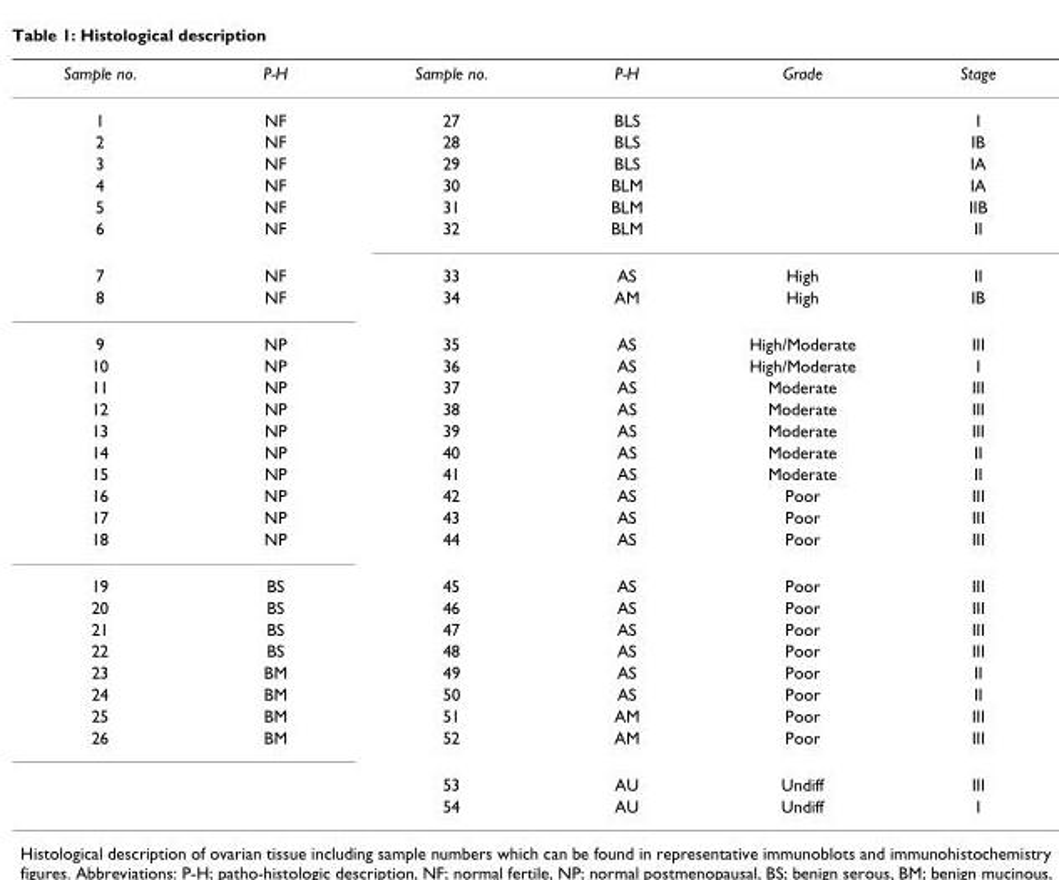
<table><thead><tr><td>Sample no.</td><td>P-H</td><td>Sample no.</td><td>P-H</td><td>Grade</td><td>Stage</td></tr></thead><tbody><tr><td>1</td><td>NF</td><td>27</td><td>BLS</td><td></td><td>I</td></tr><tr><td>2</td><td>NF</td><td>28</td><td>BLS</td><td></td><td>IB</td></tr><tr><td>3</td><td>NF</td><td>29</td><td>BLS</td><td></td><td>IA</td></tr><tr><td>4</td><td>NF</td><td>30</td><td>BLM</td><td></td><td>IA</td></tr><tr><td>5</td><td>NF</td><td>31</td><td>BLM</td><td></td><td>IIB</td></tr><tr><td>6</td><td>NF</td><td>32</td><td>BLM</td><td></td><td>II</td></tr><tr><td>7</td><td>NF</td><td>33</td><td>AS</td><td>High</td><td>II</td></tr><tr><td>8</td><td>NF</td><td>34</td><td>AM</td><td>High</td><td>IB</td></tr><tr><td>9</td><td>NP</td><td>35</td><td>AS</td><td>High/Moderate</td><td>III</td></tr><tr><td>10</td><td>NP</td><td>36</td><td>AS</td><td>High/Moderate</td><td>I</td></tr><tr><td>11</td><td>NP</td><td>37</td><td>AS</td><td>Moderate</td><td>III</td></tr><tr><td>12</td><td>NP</td><td>38</td><td>AS</td><td>Moderate</td><td>III</td></tr><tr><td>13</td><td>NP</td><td>39</td><td>AS</td><td>Moderate</td><td>III</td></tr><tr><td>14</td><td>NP</td><td>40</td><td>AS</td><td>Moderate</td><td>II</td></tr><tr><td>15</td><td>NP</td><td>41</td><td>AS</td><td>Moderate</td><td>II</td></tr><tr><td>16</td><td>NP</td><td>42</td><td>AS</td><td>Poor</td><td>III</td></tr><tr><td>17</td><td>NP</td><td>43</td><td>AS</td><td>Poor</td><td>III</td></tr><tr><td>18</td><td>NP</td><td>44</td><td>AS</td><td>Poor</td><td>III</td></tr><tr><td>19</td><td>BS</td><td>45</td><td>AS</td><td>Poor</td><td>III</td></tr><tr><td>20</td><td>BS</td><td>46</td><td>AS</td><td>Poor</td><td>III</td></tr><tr><td>21</td><td>BS</td><td>47</td><td>AS</td><td>Poor</td><td>III</td></tr><tr><td>22</td><td>BS</td><td>48</td><td>AS</td><td>Poor</td><td>III</td></tr><tr><td>23</td><td>BM</td><td>49</td><td>AS</td><td>Poor</td><td>II</td></tr><tr><td>24</td><td>BM</td><td>50</td><td>AS</td><td>Poor</td><td>II</td></tr><tr><td>25</td><td>BM</td><td>51</td><td>AM</td><td>Poor</td><td>III</td></tr><tr><td rowspan="3">26</td><td>BM</td><td>52</td><td>AM</td><td>Poor</td><td>III</td></tr><tr><td></td><td>53</td><td>AU</td><td>Undiff</td><td>III</td></tr><tr><td></td><td>54</td><td>AU</td><td>Undiff</td><td>I</td></tr></tbody></table>